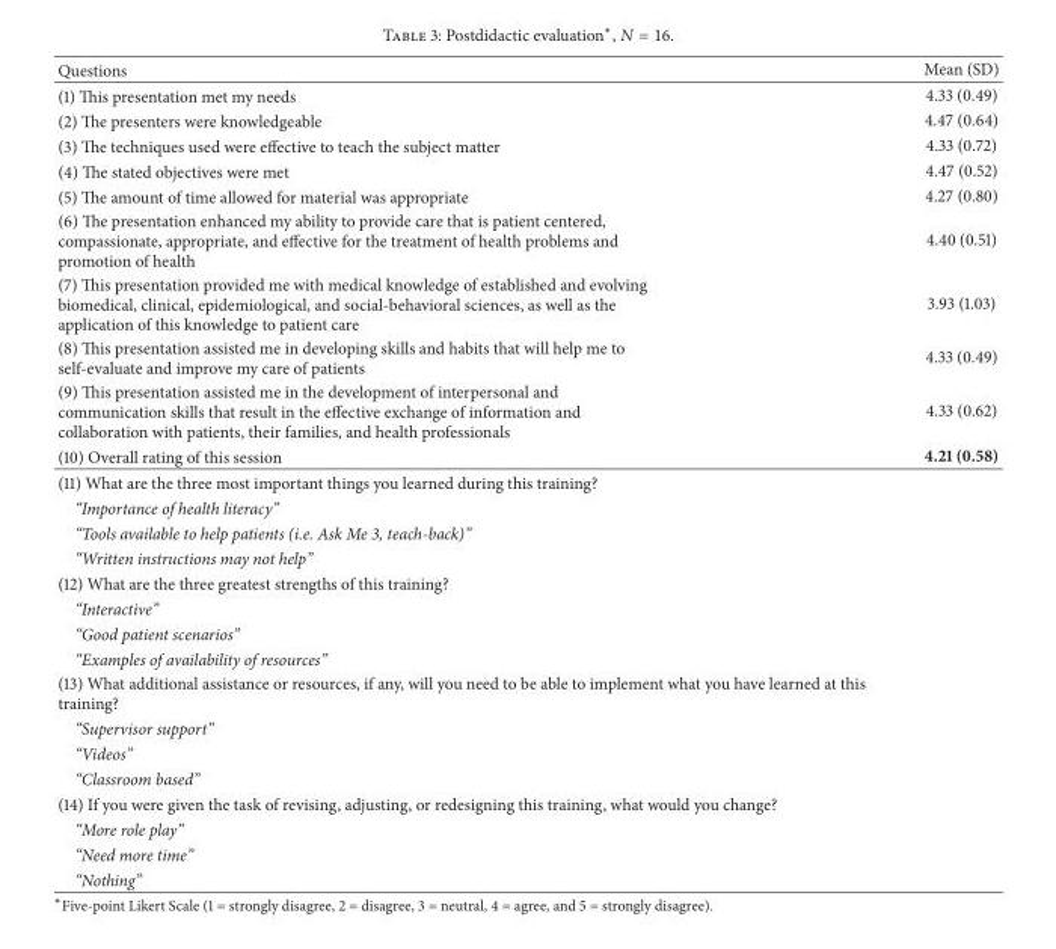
<table><thead><tr><td>Questions</td><td>Mean (SD)</td></tr></thead><tbody><tr><td>(1) This presentation met my needs</td><td>4.33 (0.49)</td></tr><tr><td>(2) The presenters were knowledgeable</td><td>4.47 (0.64)</td></tr><tr><td>(3) The techniques used were effective to teach the subject matter</td><td>4.33 (0.72)</td></tr><tr><td>(4) The stated objectives were met</td><td>4.47 (0.52)</td></tr><tr><td>(5) The amount of time allowed for material was appropriate</td><td>4.27 (0.80)</td></tr><tr><td>(6) The presentation enhanced my ability to provide care that is patient centered, compassionate, appropriate, and effective for the treatment of health problems and promotion of health</td><td>4.40 (0.51)</td></tr><tr><td>(7) This presentation provided me with medical knowledge of established and evolving biomedical, clinical, epidemiological, and social-behavioral sciences, as well as the application of this knowledge to patient care</td><td>3.93 (1.03)</td></tr><tr><td>(8) This presentation assisted me in developing skills and habits that will help me to self-evaluate and improve my care of patients</td><td>4.33 (0.49)</td></tr><tr><td>(9) This presentation assisted me in the development of interpersonal and communication skills that result in the effective exchange of information and collaboration with patients, their families, and health professionals</td><td>4.33 (0.62)</td></tr><tr><td>(10) Overall rating of this session</td><td>4.21 (0.58)</td></tr><tr><td colspan="2">(11) What are the three most important things you learned during this training?</td></tr><tr><td colspan="2">“Importance of health literacy”</td></tr><tr><td colspan="2">“Tools available to help patients (i.e. Ask Me 3, teach-back)”</td></tr><tr><td colspan="2">“Written instructions may not help”</td></tr><tr><td colspan="2">(12) What are the three greatest strengths of this training?</td></tr><tr><td colspan="2">“Interactive”</td></tr><tr><td colspan="2">“Good patient scenarios”</td></tr><tr><td colspan="2">“Examples of availability of resources”</td></tr><tr><td colspan="2">(13) What additional assistance or resources, if any, will you need to be able to implement what you have learned at this training?</td></tr><tr><td colspan="2">“Supervisor support”</td></tr><tr><td colspan="2">“Videos”</td></tr><tr><td colspan="2">“Classroom based”</td></tr><tr><td colspan="2">(14) If you were given the task of revising, adjusting, or redesigning this training, what would you change?</td></tr><tr><td colspan="2">“More role play”</td></tr><tr><td colspan="2">“Need more time”</td></tr><tr><td>“Nothing”</td><td></td></tr></tbody></table>